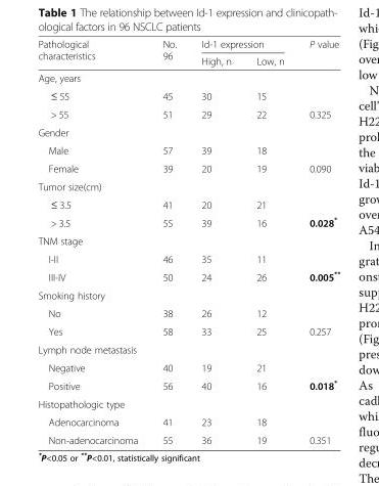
<table><thead><tr><td rowspan="2">Pathological characteristics</td><td rowspan="2">No. 96</td><td colspan="2">Id-1 expression</td><td rowspan="2">P value</td></tr><tr><td>High, n</td><td>Low, n</td></tr></thead><tbody><tr><td colspan="5">Age, years</td></tr><tr><td>≤ 55</td><td>45</td><td>30</td><td>15</td><td></td></tr><tr><td>&gt; 55</td><td>51</td><td>29</td><td>22</td><td>0.325</td></tr><tr><td colspan="5">Gender</td></tr><tr><td>Male</td><td>57</td><td>39</td><td>18</td><td></td></tr><tr><td>Female</td><td>39</td><td>20</td><td>19</td><td>0.090</td></tr><tr><td colspan="5">Tumor size(cm)</td></tr><tr><td>≤ 3.5</td><td>41</td><td>20</td><td>21</td><td></td></tr><tr><td>&gt; 3.5</td><td>55</td><td>39</td><td>16</td><td>0.028*</td></tr><tr><td colspan="5">TNM stage</td></tr><tr><td>I-II</td><td>46</td><td>35</td><td>11</td><td></td></tr><tr><td>III-IV</td><td>50</td><td>24</td><td>26</td><td>0.005**</td></tr><tr><td colspan="5">Smoking history</td></tr><tr><td>No</td><td>38</td><td>26</td><td>12</td><td></td></tr><tr><td>Yes</td><td>58</td><td>33</td><td>25</td><td>0.257</td></tr><tr><td colspan="5">Lymph node metastasis</td></tr><tr><td>Negative</td><td>40</td><td>19</td><td>21</td><td></td></tr><tr><td>Positive</td><td>56</td><td>40</td><td>16</td><td>0.018*</td></tr><tr><td colspan="5">Histopathologic type</td></tr><tr><td>Adenocarcinoma</td><td>41</td><td>23</td><td>18</td><td></td></tr><tr><td>Non-adenocarcinoma</td><td>55</td><td>36</td><td>19</td><td>0.351</td></tr></tbody></table>